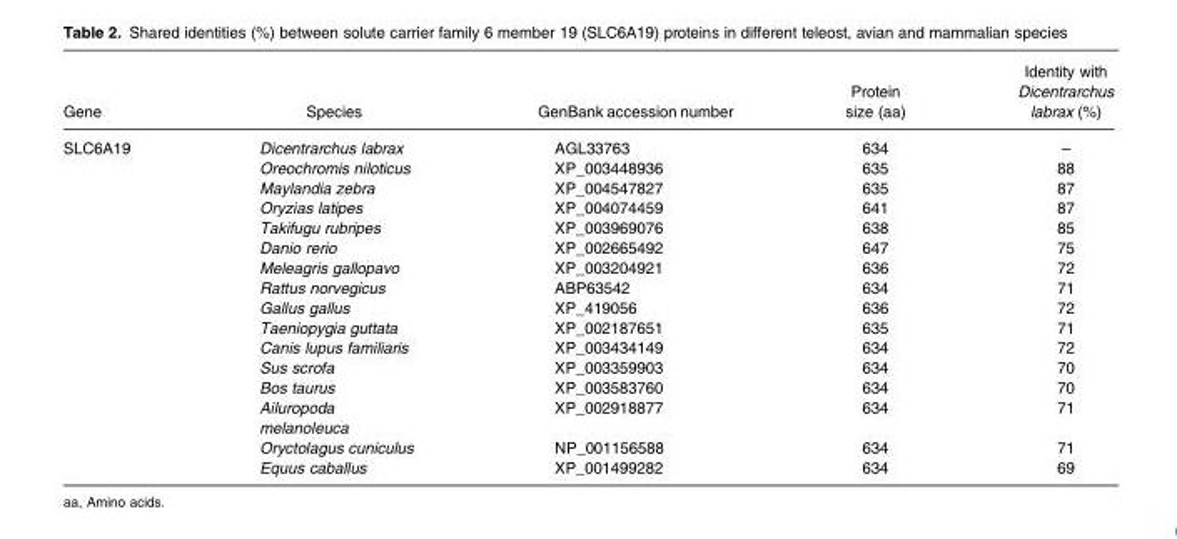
<table><thead><tr><td>Gene</td><td>Species</td><td>GenBank accession number</td><td>Protein size (aa)</td><td>Identity with Dicentrarchus labrax (%)</td></tr></thead><tbody><tr><td rowspan="16">SLC6A19</td><td>Dicentrarchus labrax</td><td>AGL33763</td><td>634</td><td>–</td></tr><tr><td>Oreochromis niloticus</td><td>XP_003448936</td><td>635</td><td>88</td></tr><tr><td>Maylandia zebra</td><td>XP_004547827</td><td>635</td><td>87</td></tr><tr><td>Oryzias latipes</td><td>XP_004074459</td><td>641</td><td>87</td></tr><tr><td>Takifugu rubripes</td><td>XP_003969076</td><td>638</td><td>85</td></tr><tr><td>Danio rerio</td><td>XP_002665492</td><td>647</td><td>75</td></tr><tr><td>Meleagris gallopavo</td><td>XP_003204921</td><td>636</td><td>72</td></tr><tr><td>Rattus norvegicus</td><td>ABP63542</td><td>634</td><td>71</td></tr><tr><td>Gallus gallus</td><td>XP_419056</td><td>636</td><td>72</td></tr><tr><td>Taeniopygia guttata</td><td>XP_002187651</td><td>635</td><td>71</td></tr><tr><td>Canis lupus familiaris</td><td>XP_003434149</td><td>634</td><td>72</td></tr><tr><td>Sus scrofa</td><td>XP_003359903</td><td>634</td><td>70</td></tr><tr><td>Bos taurus</td><td>XP_003583760</td><td>634</td><td>70</td></tr><tr><td>Ailuropoda melanoleuca</td><td>XP_002918877</td><td>634</td><td>71</td></tr><tr><td>Oryctolagus cuniculus</td><td>NP_001156588</td><td>634</td><td>71</td></tr><tr><td>Equus caballus</td><td>XP_001499282</td><td>634</td><td>69</td></tr></tbody></table>